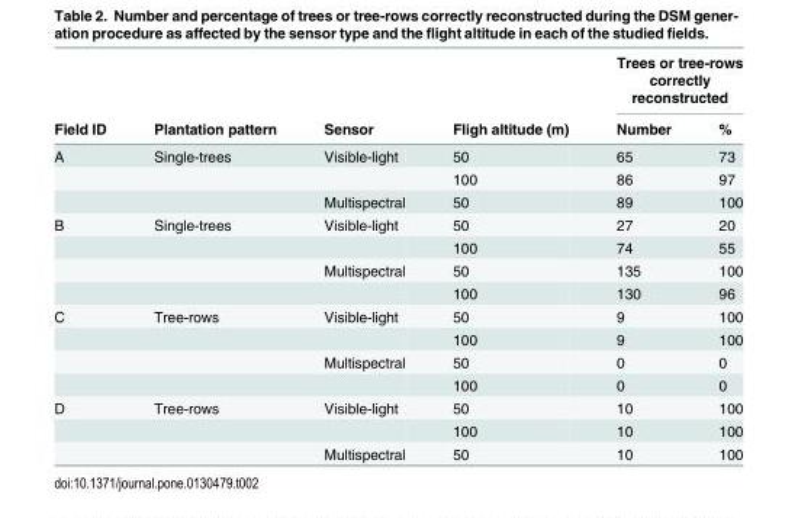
<table><thead><tr><td rowspan="2">Field ID</td><td rowspan="2">Plantation pattern</td><td rowspan="2">Sensor</td><td rowspan="2">Fligh altitude (m)</td><td colspan="2">Trees or tree-rows correctly reconstructed</td></tr><tr><td>Number</td><td>%</td></tr></thead><tbody><tr><td rowspan="3">A</td><td>Single-trees</td><td>Visible-light</td><td>50</td><td>65</td><td>73</td></tr><tr><td></td><td></td><td>100</td><td>86</td><td>97</td></tr><tr><td></td><td>Multispectral</td><td>50</td><td>89</td><td>100</td></tr><tr><td rowspan="4">B</td><td>Single-trees</td><td>Visible-light</td><td>50</td><td>27</td><td>20</td></tr><tr><td></td><td></td><td>100</td><td>74</td><td>55</td></tr><tr><td></td><td>Multispectral</td><td>50</td><td>135</td><td>100</td></tr><tr><td></td><td></td><td>100</td><td>130</td><td>96</td></tr><tr><td rowspan="4">C</td><td>Tree-rows</td><td>Visible-light</td><td>50</td><td>9</td><td>100</td></tr><tr><td></td><td></td><td>100</td><td>9</td><td>100</td></tr><tr><td></td><td>Multispectral</td><td>50</td><td>0</td><td>0</td></tr><tr><td></td><td></td><td>100</td><td>0</td><td>0</td></tr><tr><td rowspan="3">D</td><td>Tree-rows</td><td>Visible-light</td><td>50</td><td>10</td><td>100</td></tr><tr><td></td><td></td><td>100</td><td>10</td><td>100</td></tr><tr><td></td><td>Multispectral</td><td>50</td><td>10</td><td>100</td></tr></tbody></table>